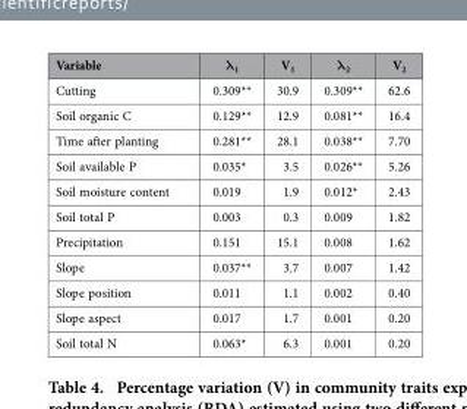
<table><thead><tr><td>Variable</td><td>λ<sub>1</sub></td><td>V<sub>1</sub></td><td>λ<sub>2</sub></td><td>V<sub>2</sub></td></tr></thead><tbody><tr><td>Cutting</td><td>0.309**</td><td>30.9</td><td>0.309**</td><td>62.6</td></tr><tr><td>Soil organic C</td><td>0.129**</td><td>12.9</td><td>0.081**</td><td>16.4</td></tr><tr><td>Time after planting</td><td>0.281**</td><td>28.1</td><td>0.038**</td><td>7.70</td></tr><tr><td>Soil available P</td><td>0.035*</td><td>3.5</td><td>0.026**</td><td>5.26</td></tr><tr><td>Soil moisture content</td><td>0.019</td><td>1.9</td><td>0.012*</td><td>2.43</td></tr><tr><td>Soil total P</td><td>0.003</td><td>0.3</td><td>0.009</td><td>1.82</td></tr><tr><td>Precipitation</td><td>0.151</td><td>15.1</td><td>0.008</td><td>1.62</td></tr><tr><td>Slope</td><td>0.037**</td><td>3.7</td><td>0.007</td><td>1.42</td></tr><tr><td>Slope position</td><td>0.011</td><td>1.1</td><td>0.002</td><td>0.40</td></tr><tr><td>Slope aspect</td><td>0.017</td><td>1.7</td><td>0.001</td><td>0.20</td></tr><tr><td>Soil total N</td><td>0.063*</td><td>6.3</td><td>0.001</td><td>0.20</td></tr></tbody></table>